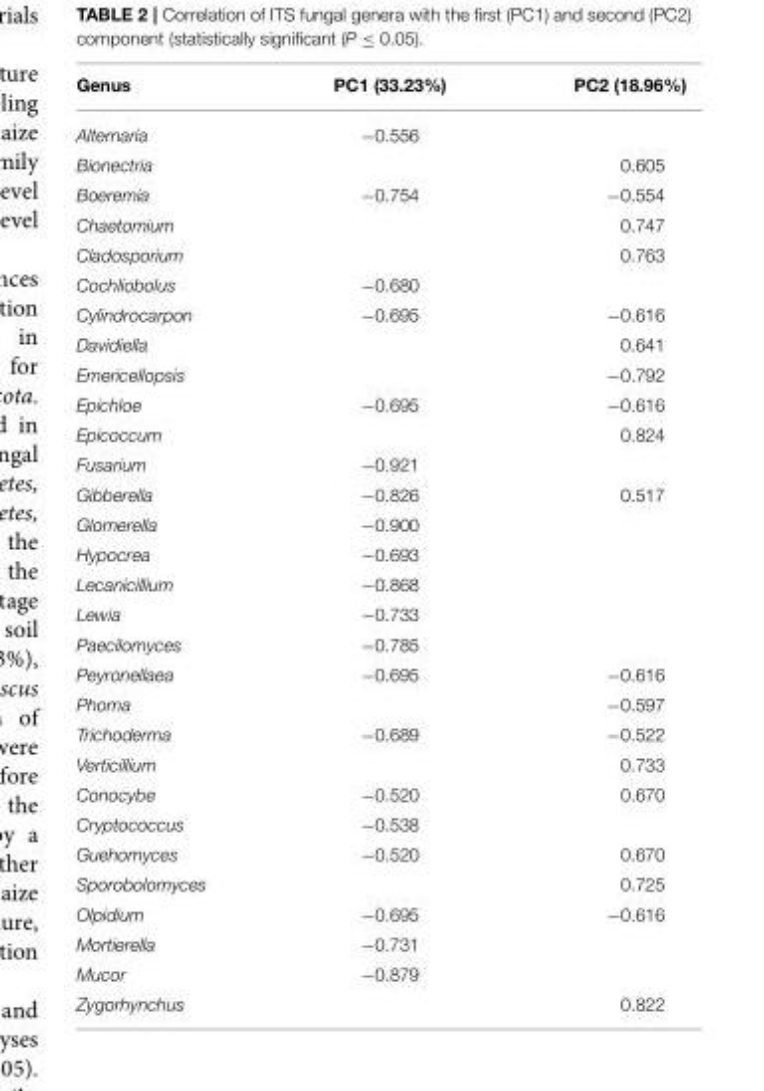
<table><thead><tr><td>Genus</td><td>PC1 (33.23%)</td><td>PC2 (18.96%)</td></tr></thead><tbody><tr><td>Alternaria</td><td>−0.556</td><td></td></tr><tr><td>Bionectria</td><td></td><td>0.605</td></tr><tr><td>Boeremia</td><td>−0.754</td><td>−0.554</td></tr><tr><td>Chaetomium</td><td></td><td>0.747</td></tr><tr><td>Cladosporium</td><td></td><td>0.763</td></tr><tr><td>Cochliobolus</td><td>−0.680</td><td></td></tr><tr><td>Cylindrocarpon</td><td>−0.695</td><td>−0.616</td></tr><tr><td>Davidiella</td><td></td><td>0.641</td></tr><tr><td>Emericellopsis</td><td></td><td>−0.792</td></tr><tr><td>Epichloe</td><td>−0.695</td><td>−0.616</td></tr><tr><td>Epicoccum</td><td></td><td>0.824</td></tr><tr><td>Fusarium</td><td>−0.921</td><td></td></tr><tr><td>Gibberella</td><td>−0.826</td><td>0.517</td></tr><tr><td>Glomerella</td><td>−0.900</td><td></td></tr><tr><td>Hypocrea</td><td>−0.693</td><td></td></tr><tr><td>Lecanicillium</td><td>−0.868</td><td></td></tr><tr><td>Lewia</td><td>−0.733</td><td></td></tr><tr><td>Paecilomyces</td><td>−0.785</td><td></td></tr><tr><td>Peyronellaea</td><td>−0.695</td><td>−0.616</td></tr><tr><td>Phoma</td><td></td><td>−0.597</td></tr><tr><td>Trichoderma</td><td>−0.689</td><td>−0.522</td></tr><tr><td>Verticillium</td><td></td><td>0.733</td></tr><tr><td>Conocybe</td><td>−0.520</td><td>0.670</td></tr><tr><td>Cryptococcus</td><td>−0.538</td><td></td></tr><tr><td>Guehomyces</td><td>−0.520</td><td>0.670</td></tr><tr><td>Sporobolomyces</td><td></td><td>0.725</td></tr><tr><td>Olpidium</td><td>−0.695</td><td>−0.616</td></tr><tr><td>Mortierella</td><td>−0.731</td><td></td></tr><tr><td>Mucor</td><td>−0.879</td><td></td></tr><tr><td>Zygorhynchus</td><td></td><td>0.822</td></tr></tbody></table>